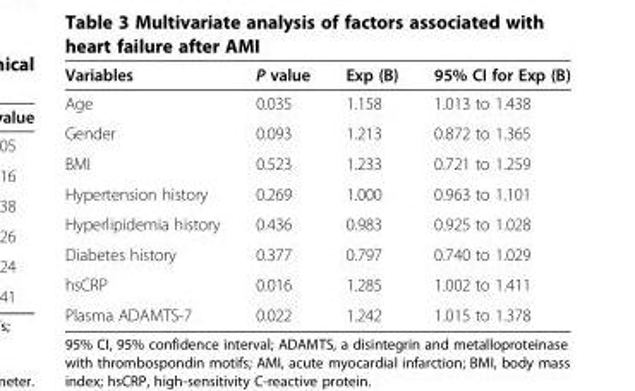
<table><thead><tr><td>Variables</td><td>P value</td><td>Exp (B)</td><td>95% CI for Exp (B)</td></tr></thead><tbody><tr><td>Age</td><td>0.035</td><td>1.158</td><td>1.013 to 1.438</td></tr><tr><td>Gender</td><td>0.093</td><td>1.213</td><td>0.872 to 1.365</td></tr><tr><td>BMI</td><td>0.523</td><td>1.233</td><td>0.721 to 1.259</td></tr><tr><td>Hypertension history</td><td>0.269</td><td>1.000</td><td>0.963 to 1.101</td></tr><tr><td>Hyperlipidemia history</td><td>0.436</td><td>0.983</td><td>0.925 to 1.028</td></tr><tr><td>Diabetes history</td><td>0.377</td><td>0.797</td><td>0.740 to 1.029</td></tr><tr><td>hsCRP</td><td>0.016</td><td>1.285</td><td>1.002 to 1.411</td></tr><tr><td>Plasma ADAMTS-7</td><td>0.022</td><td>1.242</td><td>1.015 to 1.378</td></tr></tbody></table>